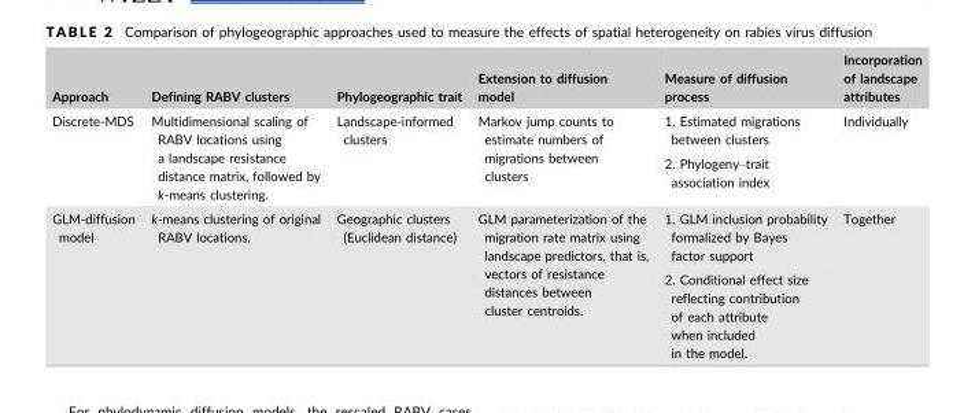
<table><thead><tr><td>Approach</td><td>Defining RABV clusters</td><td>Phylogeographic trait</td><td>Extension to diffusion model</td><td>Measure of diffusion process</td><td>Incorporation of landscape attributes</td></tr></thead><tbody><tr><td rowspan="2">Discrete-MDS</td><td rowspan="2">Multidimensional scaling of RABV locations using a landscape resistance distance matrix, followed by k-means clustering.</td><td rowspan="2">Landscape-informed clusters</td><td rowspan="2">Markov jump counts to estimate numbers of migrations between clusters</td><td>1. Estimated migrations between clusters</td><td rowspan="2">Individually</td></tr><tr><td>2. Phylogeny–trait association index</td></tr><tr><td rowspan="2">GLM-diffusion model</td><td rowspan="2">k-means clustering of original RABV locations.</td><td rowspan="2">Geographic clusters (Euclidean distance)</td><td rowspan="2">GLM parameterization of the migration rate matrix using landscape predictors, that is, vectors of resistance distances between cluster centroids.</td><td>1. GLM inclusion probability formalized by Bayes factor support</td><td rowspan="2">Together</td></tr><tr><td>2. Conditional effect size reflecting contribution of each attribute when included in the model.</td></tr></tbody></table>